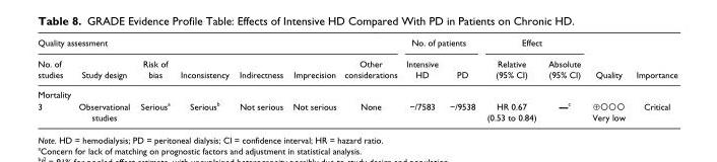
<table><thead><tr><td colspan="7">Quality assessment</td><td colspan="2">No. of patients</td><td colspan="2">Effect</td><td rowspan="2">Quality</td><td rowspan="2">Importance</td></tr><tr><td>No. of studies</td><td>Study design</td><td>Risk of bias</td><td>Inconsistency</td><td>Indirectness</td><td>Imprecision</td><td>Other considerations</td><td>Intensive HD</td><td>PD</td><td>Relative (95% CI)</td><td>Absolute (95% CI)</td></tr></thead><tbody><tr><td colspan="13">Mortality</td></tr><tr><td>3</td><td>Observational studies</td><td>Serious<sup>a</sup></td><td>Serious<sup>b</sup></td><td>Not serious</td><td>Not serious</td><td>None</td><td>−/7583</td><td>−/9538</td><td>HR 0.67 (0.53 to 0.84)</td><td>—<sup>c</sup></td><td>⊕⚪⚪⚪ Very low</td><td>Critical</td></tr></tbody></table>